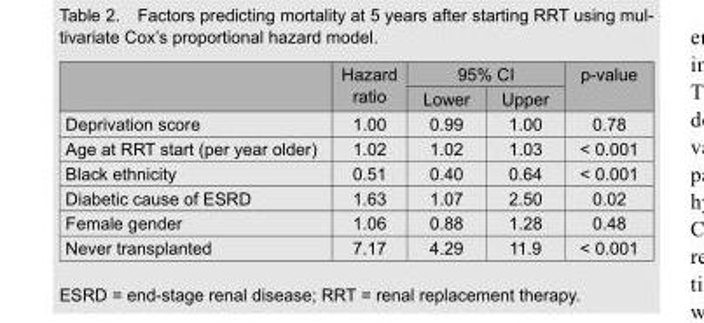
<table><thead><tr><td rowspan="2"></td><td rowspan="2">Hazard ratio</td><td colspan="2">95% CI</td><td rowspan="2">p-value</td></tr><tr><td>Lower</td><td>Upper</td></tr></thead><tbody><tr><td>Deprivation score</td><td>1.00</td><td>0.99</td><td>1.00</td><td>0.78</td></tr><tr><td>Age at RRT start (per year older)</td><td>1.02</td><td>1.02</td><td>1.03</td><td>&lt; 0.001</td></tr><tr><td>Black ethnicity</td><td>0.51</td><td>0.40</td><td>0.64</td><td>&lt; 0.001</td></tr><tr><td>Diabetic cause of ESRD</td><td>1.63</td><td>1.07</td><td>2.50</td><td>0.02</td></tr><tr><td>Female gender</td><td>1.06</td><td>0.88</td><td>1.28</td><td>0.48</td></tr><tr><td>Never transplanted</td><td>7.17</td><td>4.29</td><td>11.9</td><td>&lt; 0.001</td></tr></tbody></table>